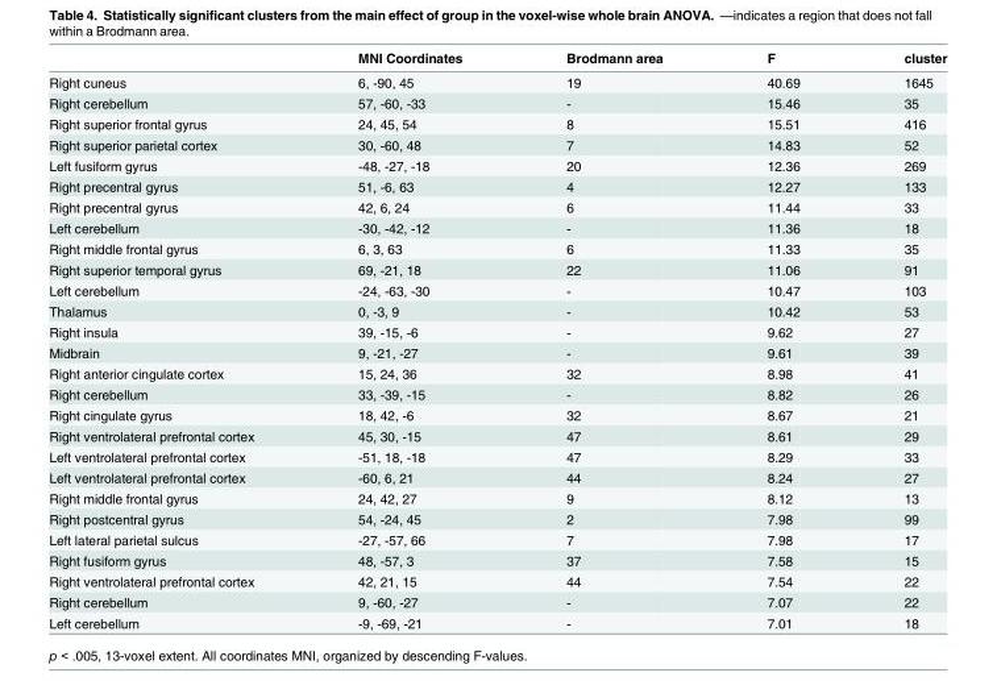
<table><thead><tr><td></td><td>MNI Coordinates</td><td>Brodmann area</td><td>F</td><td>cluster</td></tr></thead><tbody><tr><td>Right cuneus</td><td>6, -90, 45</td><td>19</td><td>40.69</td><td>1645</td></tr><tr><td>Right cerebellum</td><td>57, -60, -33</td><td>-</td><td>15.46</td><td>35</td></tr><tr><td>Right superior frontal gyrus</td><td>24, 45, 54</td><td>8</td><td>15.51</td><td>416</td></tr><tr><td>Right superior parietal cortex</td><td>30, -60, 48</td><td>7</td><td>14.83</td><td>52</td></tr><tr><td>Left fusiform gyrus</td><td>-48, -27, -18</td><td>20</td><td>12.36</td><td>269</td></tr><tr><td>Right precentral gyrus</td><td>51, -6, 63</td><td>4</td><td>12.27</td><td>133</td></tr><tr><td>Right precentral gyrus</td><td>42, 6, 24</td><td>6</td><td>11.44</td><td>33</td></tr><tr><td>Left cerebellum</td><td>-30, -42, -12</td><td>-</td><td>11.36</td><td>18</td></tr><tr><td>Right middle frontal gyrus</td><td>6, 3, 63</td><td>6</td><td>11.33</td><td>35</td></tr><tr><td>Right superior temporal gyrus</td><td>69, -21, 18</td><td>22</td><td>11.06</td><td>91</td></tr><tr><td>Left cerebellum</td><td>-24, -63, -30</td><td>-</td><td>10.47</td><td>103</td></tr><tr><td>Thalamus</td><td>0, -3, 9</td><td>-</td><td>10.42</td><td>53</td></tr><tr><td>Right insula</td><td>39, -15, -6</td><td>-</td><td>9.62</td><td>27</td></tr><tr><td>Midbrain</td><td>9, -21, -27</td><td>-</td><td>9.61</td><td>39</td></tr><tr><td>Right anterior cingulate cortex</td><td>15, 24, 36</td><td>32</td><td>8.98</td><td>41</td></tr><tr><td>Right cerebellum</td><td>33, -39, -15</td><td>-</td><td>8.82</td><td>26</td></tr><tr><td>Right cingulate gyrus</td><td>18, 42, -6</td><td>32</td><td>8.67</td><td>21</td></tr><tr><td>Right ventrolateral prefrontal cortex</td><td>45, 30, -15</td><td>47</td><td>8.61</td><td>29</td></tr><tr><td>Left ventrolateral prefrontal cortex</td><td>-51, 18, -18</td><td>47</td><td>8.29</td><td>33</td></tr><tr><td>Left ventrolateral prefrontal cortex</td><td>-60, 6, 21</td><td>44</td><td>8.24</td><td>27</td></tr><tr><td>Right middle frontal gyrus</td><td>24, 42, 27</td><td>9</td><td>8.12</td><td>13</td></tr><tr><td>Right postcentral gyrus</td><td>54, -24, 45</td><td>2</td><td>7.98</td><td>99</td></tr><tr><td>Left lateral parietal sulcus</td><td>-27, -57, 66</td><td>7</td><td>7.98</td><td>17</td></tr><tr><td>Right fusiform gyrus</td><td>48, -57, 3</td><td>37</td><td>7.58</td><td>15</td></tr><tr><td>Right ventrolateral prefrontal cortex</td><td>42, 21, 15</td><td>44</td><td>7.54</td><td>22</td></tr><tr><td>Right cerebellum</td><td>9, -60, -27</td><td>-</td><td>7.07</td><td>22</td></tr><tr><td>Left cerebellum</td><td>-9, -69, -21</td><td>-</td><td>7.01</td><td>18</td></tr></tbody></table>